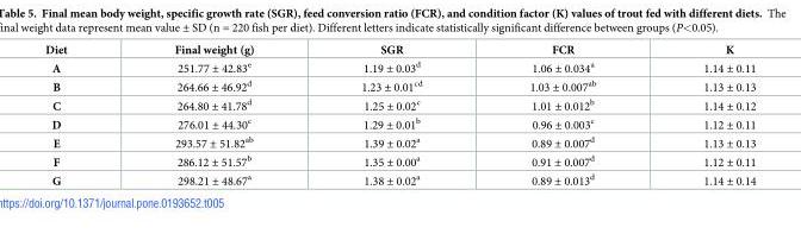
<table><thead><tr><td>Diet</td><td>Final weight (g)</td><td>SGR</td><td>FCR</td><td>K</td></tr></thead><tbody><tr><td>A</td><td>251.77 ± 42.83<sup>e</sup></td><td>1.19 ± 0.03<sup>d</sup></td><td>1.06 ± 0.034<sup>a</sup></td><td>1.14 ± 0.11</td></tr><tr><td>B</td><td>264.66 ± 46.92<sup>d</sup></td><td>1.23 ± 0.01<sup>cd</sup></td><td>1.03 ± 0.007<sup>ab</sup></td><td>1.13 ± 0.13</td></tr><tr><td>C</td><td>264.80 ± 41.78<sup>d</sup></td><td>1.25 ± 0.02<sup>c</sup></td><td>1.01 ± 0.012<sup>b</sup></td><td>1.14 ± 0.12</td></tr><tr><td>D</td><td>276.01 ± 44.30<sup>c</sup></td><td>1.29 ± 0.01<sup>b</sup></td><td>0.96 ± 0.003<sup>c</sup></td><td>1.12 ± 0.11</td></tr><tr><td>E</td><td>293.57 ± 51.82<sup>ab</sup></td><td>1.39 ± 0.02<sup>a</sup></td><td>0.89 ± 0.007<sup>d</sup></td><td>1.13 ± 0.13</td></tr><tr><td>F</td><td>286.12 ± 51.57<sup>b</sup></td><td>1.35 ± 0.00<sup>a</sup></td><td>0.91 ± 0.007<sup>d</sup></td><td>1.12 ± 0.11</td></tr><tr><td>G</td><td>298.21 ± 48.67<sup>a</sup></td><td>1.38 ± 0.02<sup>a</sup></td><td>0.89 ± 0.013<sup>d</sup></td><td>1.14 ± 0.14</td></tr></tbody></table>